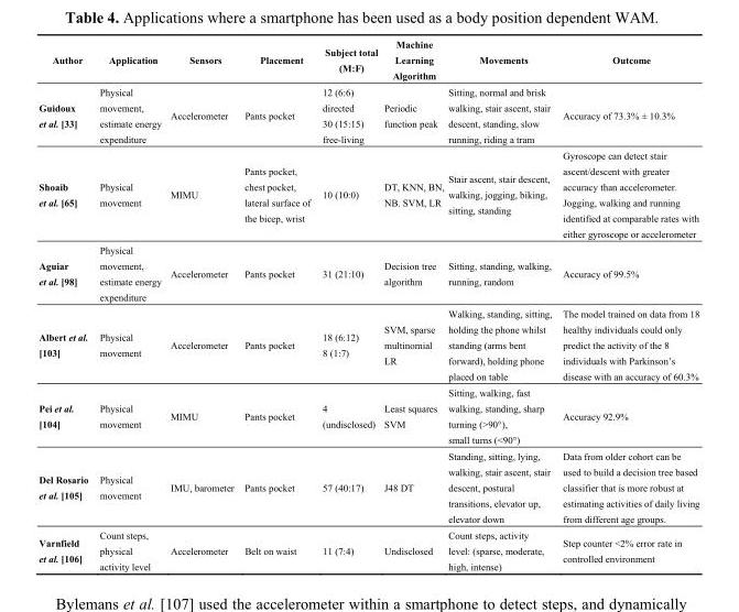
<table><thead><tr><td>Author</td><td>Application</td><td>Sensors</td><td>Placement</td><td>Subject total (M:F)</td><td>Machine Learning Algorithm</td><td>Movements</td><td>Outcome</td></tr></thead><tbody><tr><td>Guidoux et al. [33]</td><td>Physical movement, estimate energy expenditure</td><td>Accelerometer</td><td>Pants pocket</td><td>12 (6:6) directed 30 (15:15) free-living</td><td>Periodic function peak</td><td>Sitting, normal and brisk walking, stair ascent, stair descent, standing, slow running, riding a tram</td><td>Accuracy of 73.3% ± 10.3%</td></tr><tr><td>Shoaib et al. [65]</td><td>Physical movement</td><td>MIMU</td><td>Pants pocket, chest pocket, lateral surface of the bicep, wrist</td><td>10 (10:0)</td><td>DT, KNN, BN, NB. SVM, LR</td><td>Stair ascent, stair descent, walking, jogging, biking, sitting, standing</td><td>Gyroscope can detect stair ascent/descent with greater accuracy than accelerometer. Jogging, walking and running identified at comparable rates with either gyroscope or accelerometer</td></tr><tr><td>Aguiar et al. [98]</td><td>Physical movement, estimate energy expenditure</td><td>Accelerometer</td><td>Pants pocket</td><td>31 (21:10)</td><td>Decision tree algorithm</td><td>Sitting, standing, walking, running, random</td><td>Accuracy of 99.5%</td></tr><tr><td>Albert et al. [103]</td><td>Physical movement</td><td>Accelerometer</td><td>Pants pocket</td><td>18 (6:12) 8 (1:7)</td><td>SVM, sparse multinomial LR</td><td>Walking, standing, sitting, holding the phone whilst standing (arms bent forward), holding phone placed on table</td><td>The model trained on data from 18 healthy individuals could only predict the activity of the 8 individuals with Parkinson’s disease with an accuracy of 60.3%</td></tr><tr><td>Pei et al. [104]</td><td>Physical movement</td><td>MIMU</td><td>Pants pocket</td><td>4 (undisclosed)</td><td>Least squares SVM</td><td>Sitting, walking, fast walking, standing, sharp turning (&gt;90°), small turns (&lt;90°)</td><td>Accuracy 92.9%</td></tr><tr><td>Del Rosario et al. [105]</td><td>Physical movement</td><td>IMU, barometer</td><td>Pants pocket</td><td>57 (40:17)</td><td>J48 DT</td><td>Standing, sitting, lying, walking, stair ascent, stair descent, postural transitions, elevator up, elevator down</td><td>Data from older cohort can be used to build a decision tree based classifier that is more robust at estimating activities of daily living from different age groups.</td></tr><tr><td>Varnfield et al. [106]</td><td>Count steps, physical activity level</td><td>Accelerometer</td><td>Belt on waist</td><td>11 (7:4)</td><td>Undisclosed</td><td>Count steps, activity level: (sparse, moderate, high, intense)</td><td>Step counter &lt;2% error rate in controlled environment</td></tr></tbody></table>